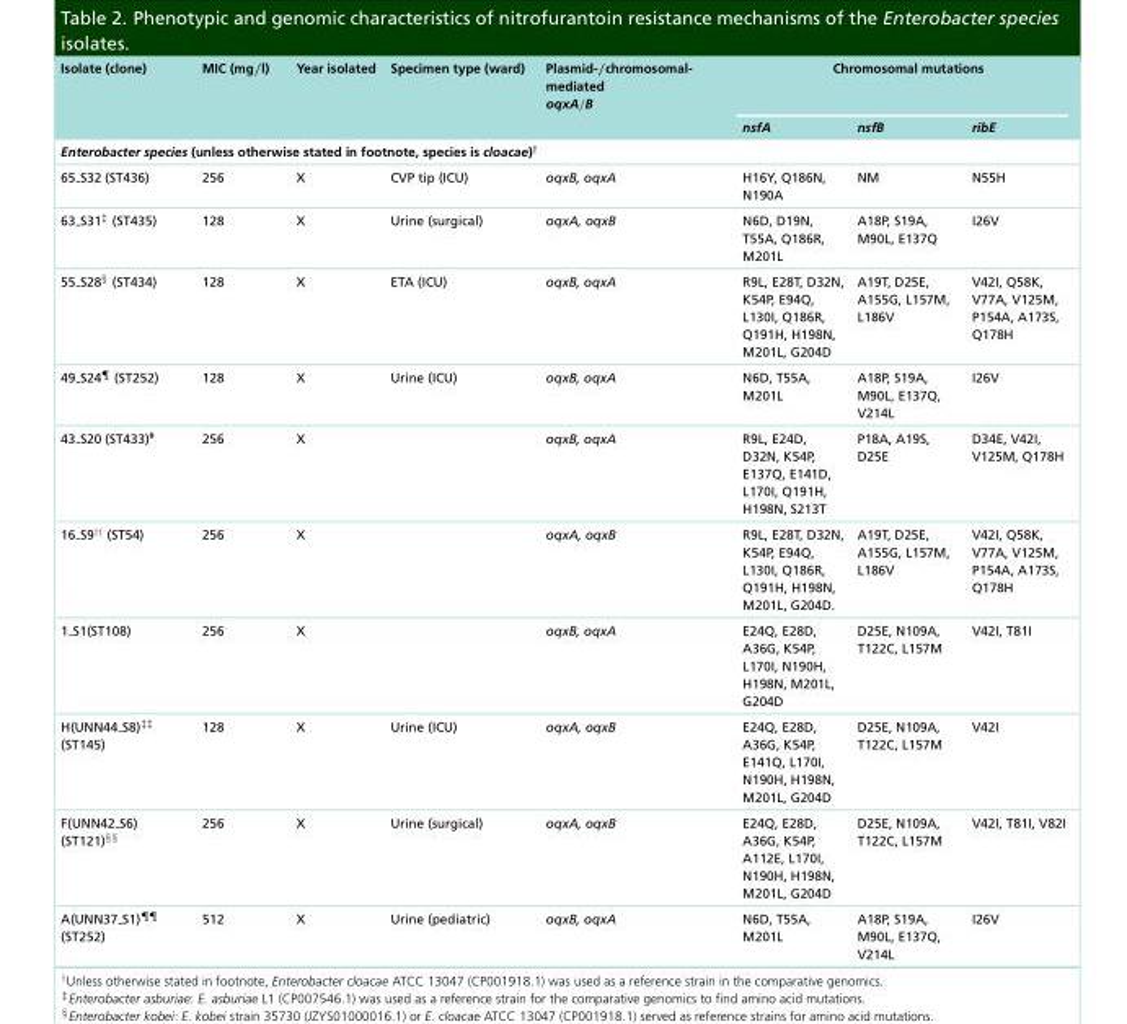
<table><thead><tr><td rowspan="2">Isolate (clone)</td><td rowspan="2">MIC (mg/l)</td><td rowspan="2">Year isolated</td><td rowspan="2">Specimen type (ward)</td><td rowspan="2">Plasmid-/chromosomal- mediated oqxA/B</td><td colspan="3">Chromosomal mutations</td></tr><tr><td>nsfA</td><td>nsfB</td><td>ribE</td></tr></thead><tbody><tr><td colspan="8">Enterobacter species (unless otherwise stated in footnote, species is cloacae)<sup>†</sup></td></tr><tr><td>65 S32 (ST436)</td><td>256</td><td>X</td><td>CVP tip (ICU)</td><td>oqxB, oqxA</td><td>H16Y, Q186N, N190A</td><td>NM</td><td>N55H</td></tr><tr><td>63 S31‡ (ST435)</td><td>128</td><td>X</td><td>Urine (surgical)</td><td>oqxA, oqxB</td><td>N6D, D19N, T55A, Q186R, M201L</td><td>A18P, S19A, M90L, E137Q</td><td>I26V</td></tr><tr><td>55 S28§ (ST434)</td><td>128</td><td>X</td><td>ETA (ICU)</td><td>oqxB, oqxA</td><td>R9L, E28T, D32N, K54P, E94Q, L130I, Q186R, Q191H, H198N, M201L, G204D</td><td>A19T, D25E, A155G, L157M, L186V</td><td>V42I, Q58K, V77A, V125M, P154A, A173S, Q178H</td></tr><tr><td>49 S24¶ (ST252)</td><td>128</td><td>X</td><td>Urine (ICU)</td><td>oqxB, oqxA</td><td>N6D, T55A, M201L</td><td>A18P, S19A, M90L, E137Q, V214L</td><td>I26V</td></tr><tr><td>43 S20 (ST433)#</td><td>256</td><td>X</td><td></td><td>oqxB, oqxA</td><td>R9L, E24D, D32N, K54P, E137Q, E141D, L170I, Q191H, H198N, S213T</td><td>P18A, A19S, D25E</td><td>D34E, V42I, V125M, Q178H</td></tr><tr><td>16 S9†† (ST54)</td><td>256</td><td>X</td><td></td><td>oqxA, oqxB</td><td>R9L, E28T, D32N, K54P, E94Q, L130I, Q186R, Q191H, H198N, M201L, G204D.</td><td>A19T, D25E, A155G, L157M, L186V</td><td>V42I, Q58K, V77A, V125M, P154A, A173S, Q178H</td></tr><tr><td>1 S1(ST108)</td><td>256</td><td>X</td><td></td><td>oqxB, oqxA</td><td>E24Q, E28D, A36G, K54P, L170I, N190H, H198N, M201L, G204D</td><td>D25E, N109A, T122C, L157M</td><td>V42I, T81I</td></tr><tr><td>H(UNN44 S8)‡‡ (ST145)</td><td>128</td><td>X</td><td>Urine (ICU)</td><td>oqxA, oqxB</td><td>E24Q, E28D, A36G, K54P, E141Q, L170I, N190H, H198N, M201L, G204D</td><td>D25E, N109A, T122C, L157M</td><td>V42I</td></tr><tr><td>F(UNN42 S6) (ST121)§§</td><td>256</td><td>X</td><td>Urine (surgical)</td><td>oqxA, oqxB</td><td>E24Q, E28D, A36G, K54P, A112E, L170I, N190H, H198N, M201L, G204D</td><td>D25E, N109A, T122C, L157M</td><td>V42I, T81I, V82I</td></tr><tr><td>A(UNN37 S1)¶¶ (ST252)</td><td>512</td><td>X</td><td>Urine (pediatric)</td><td>oqxB, oqxA</td><td>N6D, T55A, M201L</td><td>A18P, S19A, M90L, E137Q, V214L</td><td>I26V</td></tr></tbody></table>